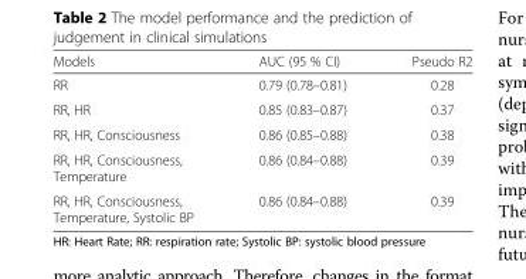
<table><thead><tr><td>Models</td><td>AUC (95 % CI)</td><td>Pseudo R2</td></tr></thead><tbody><tr><td>RR</td><td>0.79 (0.78–0.81)</td><td>0.28</td></tr><tr><td>RR, HR</td><td>0.85 (0.83–0.87)</td><td>0.37</td></tr><tr><td>RR, HR, Consciousness</td><td>0.86 (0.85–0.88)</td><td>0.38</td></tr><tr><td>RR, HR, Consciousness, Temperature</td><td>0.86 (0.84–0.88)</td><td>0.39</td></tr><tr><td>RR, HR, Consciousness, Temperature, Systolic BP</td><td>0.86 (0.84–0.88)</td><td>0.39</td></tr></tbody></table>